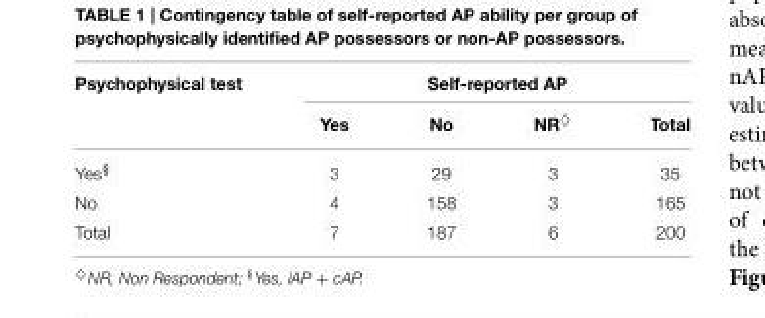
<table><thead><tr><td rowspan="2">Psychophysical test</td><td colspan="4">Self-reported AP</td></tr><tr><td>Yes</td><td>No</td><td>NR♦</td><td>Total</td></tr></thead><tbody><tr><td>Yes<sup>§</sup></td><td>3</td><td>29</td><td>3</td><td>35</td></tr><tr><td>No</td><td>4</td><td>158</td><td>3</td><td>165</td></tr><tr><td>Total</td><td>7</td><td>187</td><td>6</td><td>200</td></tr></tbody></table>